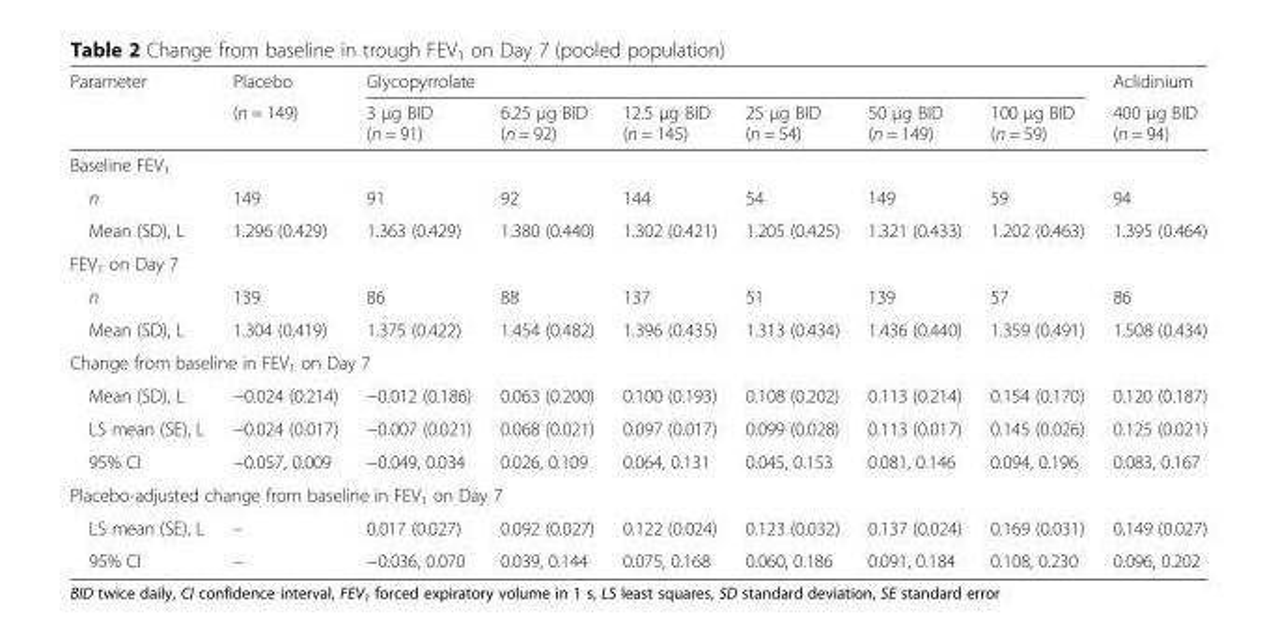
<table><thead><tr><td rowspan="2">Parameter</td><td rowspan="2">Placebo (n = 149)</td><td colspan="6">Glycopyrrolate</td><td rowspan="2">Aclidinium 400 μg BID (n = 94)</td></tr><tr><td>3 μg BID (n = 91)</td><td>6.25 μg BID (n = 92)</td><td>12.5 μg BID (n = 145)</td><td>25 μg BID (n = 54)</td><td>50 μg BID (n = 149)</td><td>100 μg BID (n = 59)</td></tr></thead><tbody><tr><td colspan="9">Baseline FEV<sub>1</sub></td></tr><tr><td>n</td><td>149</td><td>91</td><td>92</td><td>144</td><td>54</td><td>149</td><td>59</td><td>94</td></tr><tr><td>Mean (SD), L</td><td>1.296 (0.429)</td><td>1.363 (0.429)</td><td>1.380 (0.440)</td><td>1.302 (0.421)</td><td>1.205 (0.425)</td><td>1.321 (0.433)</td><td>1.202 (0.463)</td><td>1.395 (0.464)</td></tr><tr><td colspan="9">FEV<sub>1</sub> on Day 7</td></tr><tr><td>n</td><td>139</td><td>86</td><td>88</td><td>137</td><td>51</td><td>139</td><td>57</td><td>86</td></tr><tr><td>Mean (SD), L</td><td>1.304 (0.419)</td><td>1.375 (0.422)</td><td>1.454 (0.482)</td><td>1.396 (0.435)</td><td>1.313 (0.434)</td><td>1.436 (0.440)</td><td>1.359 (0.491)</td><td>1.508 (0.434)</td></tr><tr><td colspan="9">Change from baseline in FEV<sub>1</sub> on Day 7</td></tr><tr><td>Mean (SD), L</td><td>−0.024 (0.214)</td><td>−0.012 (0.186)</td><td>0.063 (0.200)</td><td>0.100 (0.193)</td><td>0.108 (0.202)</td><td>0.113 (0.214)</td><td>0.154 (0.170)</td><td>0.120 (0.187)</td></tr><tr><td>LS mean (SE), L</td><td>−0.024 (0.017)</td><td>−0.007 (0.021)</td><td>0.068 (0.021)</td><td>0.097 (0.017)</td><td>0.099 (0.028)</td><td>0.113 (0.017)</td><td>0.145 (0.026)</td><td>0.125 (0.021)</td></tr><tr><td>95% CI</td><td>−0.057, 0.009</td><td>−0.049, 0.034</td><td>0.026, 0.109</td><td>0.064, 0.131</td><td>0.045, 0.153</td><td>0.081, 0.146</td><td>0.094, 0.196</td><td>0.083, 0.167</td></tr><tr><td colspan="9">Placebo-adjusted change from baseline in FEV<sub>1</sub> on Day 7</td></tr><tr><td>LS mean (SE), L</td><td>–</td><td>0.017 (0.027)</td><td>0.092 (0.027)</td><td>0.122 (0.024)</td><td>0.123 (0.032)</td><td>0.137 (0.024)</td><td>0.169 (0.031)</td><td>0.149 (0.027)</td></tr><tr><td>95% CI</td><td>–</td><td>−0.036, 0.070</td><td>0.039, 0.144</td><td>0.075, 0.168</td><td>0.060, 0.186</td><td>0.091, 0.184</td><td>0.108, 0.230</td><td>0.096, 0.202</td></tr></tbody></table>